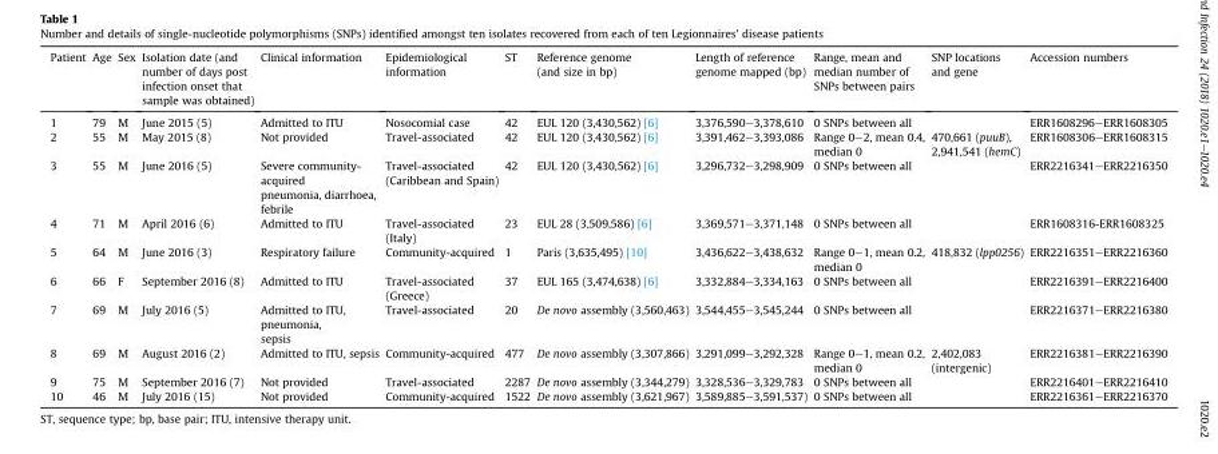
<table><thead><tr><td>Patient</td><td>Age</td><td>Sex</td><td>Isolation date (and number of days post infection onset that sample was obtained)</td><td>Clinical information</td><td>Epidemiological information</td><td>ST</td><td>Reference genome (and size in bp)</td><td>Length of reference genome mapped (bp)</td><td>Range, mean and median number of SNPs between pairs</td><td>SNP locations and gene</td><td>Accession numbers</td></tr></thead><tbody><tr><td>1</td><td>79</td><td>M</td><td>June 2015 (5)</td><td>Admitted to ITU</td><td>Nosocomial case</td><td>42</td><td>EUL 120 (3,430,562) [6]</td><td>3,376,590–3,378,610</td><td>0 SNPs between all</td><td></td><td>ERR1608296–ERR1608305</td></tr><tr><td>2</td><td>55</td><td>M</td><td>May 2015 (8)</td><td>Not provided</td><td>Travel-associated</td><td>42</td><td>EUL 120 (3,430,562) [6]</td><td>3,391,462–3,393,086</td><td>Range 0–2, mean 0.4, median 0</td><td>470,661 (puuB), 2,941,541 (hemC)</td><td>ERR1608306–ERR1608315</td></tr><tr><td>3</td><td>55</td><td>M</td><td>June 2016 (5)</td><td>Severe community- acquired pneumonia, diarrhoea, febrile</td><td>Travel-associated (Caribbean and Spain)</td><td>42</td><td>EUL 120 (3,430,562) [6]</td><td>3,296,732–3,298,909</td><td>0 SNPs between all</td><td></td><td>ERR2216341–ERR2216350</td></tr><tr><td>4</td><td>71</td><td>M</td><td>April 2016 (6)</td><td>Admitted to ITU</td><td>Travel-associated (Italy)</td><td>23</td><td>EUL 28 (3,509,586) [6]</td><td>3,369,571–3,371,148</td><td>0 SNPs between all</td><td></td><td>ERR1608316-ERR1608325</td></tr><tr><td>5</td><td>64</td><td>M</td><td>June 2016 (3)</td><td>Respiratory failure</td><td>Community-acquired</td><td>1</td><td>Paris (3,635,495) [10]</td><td>3,436,622–3,438,632</td><td>Range 0–1, mean 0.2, median 0</td><td>418,832 (lpp0256)</td><td>ERR2216351–ERR2216360</td></tr><tr><td>6</td><td>66</td><td>F</td><td>September 2016 (8)</td><td>Admitted to ITU</td><td>Travel-associated (Greece)</td><td>37</td><td>EUL 165 (3,474,638) [6]</td><td>3,332,884–3,334,163</td><td>0 SNPs between all</td><td></td><td>ERR2216391–ERR2216400</td></tr><tr><td>7</td><td>69</td><td>M</td><td>July 2016 (5)</td><td>Admitted to ITU, pneumonia, sepsis</td><td>Travel-associated</td><td>20</td><td>De novo assembly (3,560,463)</td><td>3,544,455–3,545,244</td><td>0 SNPs between all</td><td></td><td>ERR2216371–ERR2216380</td></tr><tr><td>8</td><td>69</td><td>M</td><td>August 2016 (2)</td><td>Admitted to ITU, sepsis</td><td>Community-acquired</td><td>477</td><td>De novo assembly (3,307,866)</td><td>3,291,099–3,292,328</td><td>Range 0–1, mean 0.2, median 0</td><td>2,402,083 (intergenic)</td><td>ERR2216381–ERR2216390</td></tr><tr><td>9</td><td>75</td><td>M</td><td>September 2016 (7)</td><td>Not provided</td><td>Travel-associated</td><td>2287</td><td>De novo assembly (3,344,279)</td><td>3,328,536–3,329,783</td><td>0 SNPs between all</td><td></td><td>ERR2216401–ERR2216410</td></tr><tr><td>10</td><td>46</td><td>M</td><td>July 2016 (15)</td><td>Not provided</td><td>Community-acquired</td><td>1522</td><td>De novo assembly (3,621,967)</td><td>3,589,885–3,591,537)</td><td>0 SNPs between all</td><td></td><td>ERR2216361–ERR2216370</td></tr></tbody></table>